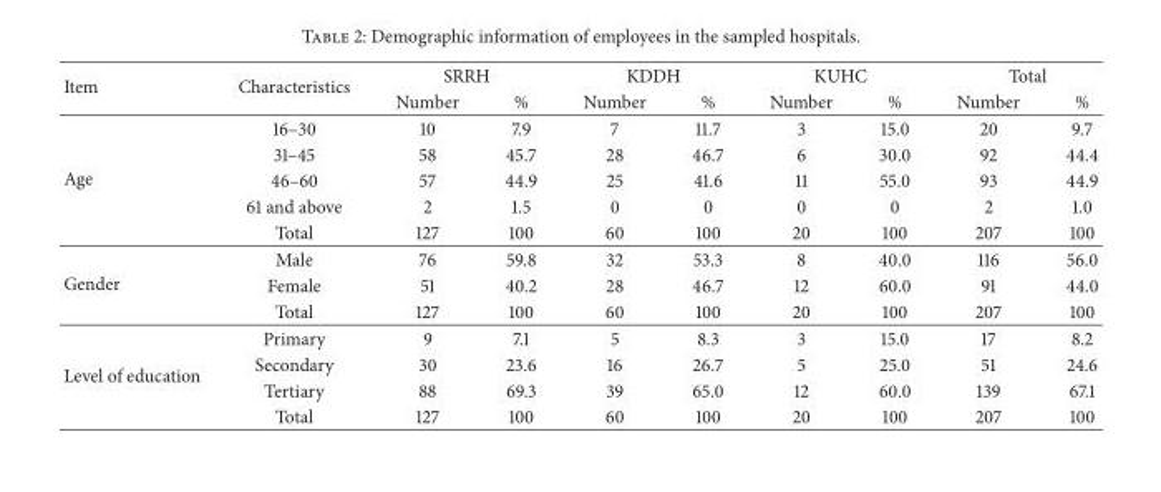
<table><thead><tr><td rowspan="2">Item</td><td rowspan="2">Characteristics</td><td colspan="2">SRRH</td><td colspan="2">KDDH</td><td colspan="2">KUHC</td><td colspan="2">Total</td></tr><tr><td>Number</td><td>%</td><td>Number</td><td>%</td><td>Number</td><td>%</td><td>Number</td><td>%</td></tr></thead><tbody><tr><td rowspan="5">Age</td><td>16–30</td><td>10</td><td>7.9</td><td>7</td><td>11.7</td><td>3</td><td>15.0</td><td>20</td><td>9.7</td></tr><tr><td>31–45</td><td>58</td><td>45.7</td><td>28</td><td>46.7</td><td>6</td><td>30.0</td><td>92</td><td>44.4</td></tr><tr><td>46–60</td><td>57</td><td>44.9</td><td>25</td><td>41.6</td><td>11</td><td>55.0</td><td>93</td><td>44.9</td></tr><tr><td>61 and above</td><td>2</td><td>1.5</td><td>0</td><td>0</td><td>0</td><td>0</td><td>2</td><td>1.0</td></tr><tr><td>Total</td><td>127</td><td>100</td><td>60</td><td>100</td><td>20</td><td>100</td><td>207</td><td>100</td></tr><tr><td rowspan="3">Gender</td><td>Male</td><td>76</td><td>59.8</td><td>32</td><td>53.3</td><td>8</td><td>40.0</td><td>116</td><td>56.0</td></tr><tr><td>Female</td><td>51</td><td>40.2</td><td>28</td><td>46.7</td><td>12</td><td>60.0</td><td>91</td><td>44.0</td></tr><tr><td>Total</td><td>127</td><td>100</td><td>60</td><td>100</td><td>20</td><td>100</td><td>207</td><td>100</td></tr><tr><td rowspan="4">Level of education</td><td>Primary</td><td>9</td><td>7.1</td><td>5</td><td>8.3</td><td>3</td><td>15.0</td><td>17</td><td>8.2</td></tr><tr><td>Secondary</td><td>30</td><td>23.6</td><td>16</td><td>26.7</td><td>5</td><td>25.0</td><td>51</td><td>24.6</td></tr><tr><td>Tertiary</td><td>88</td><td>69.3</td><td>39</td><td>65.0</td><td>12</td><td>60.0</td><td>139</td><td>67.1</td></tr><tr><td>Total</td><td>127</td><td>100</td><td>60</td><td>100</td><td>20</td><td>100</td><td>207</td><td>100</td></tr></tbody></table>